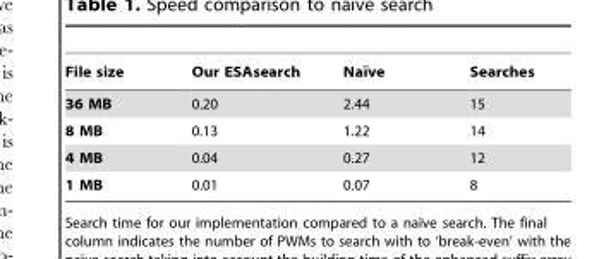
<table><thead><tr><td>File size</td><td>Our ESAsearch</td><td>Naı¨ve</td><td>Searches</td></tr></thead><tbody><tr><td>36 MB</td><td>0.20</td><td>2.44</td><td>15</td></tr><tr><td>8 MB</td><td>0.13</td><td>1.22</td><td>14</td></tr><tr><td>4 MB</td><td>0.04</td><td>0.27</td><td>12</td></tr><tr><td>1 MB</td><td>0.01</td><td>0.07</td><td>8</td></tr></tbody></table>